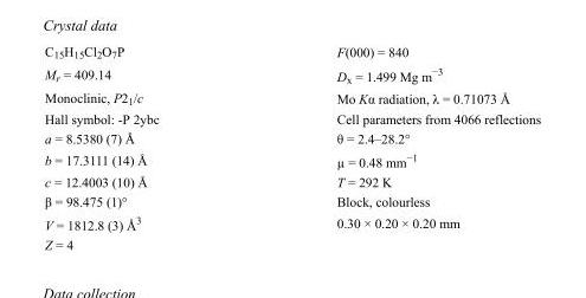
<table><tbody><tr><td>C<sub>15</sub>H<sub>15</sub>Cl<sub>2</sub>O<sub>7</sub>P</td><td>F(000) = 840</td></tr><tr><td>M<sub>r</sub> = 409.14</td><td>D<sub>x</sub> = 1.499 Mg m<sup>−3</sup></td></tr><tr><td>Monoclinic, P2<sub>1</sub>/c</td><td>Mo Kα radiation, λ = 0.71073 Å</td></tr><tr><td>Hall symbol: -P 2ybc</td><td>Cell parameters from 4066 reflections</td></tr><tr><td>a = 8.5380 (7) Å</td><td>θ = 2.4–28.2°</td></tr><tr><td>b = 17.3111 (14) Å</td><td>µ = 0.48 mm<sup>−1</sup></td></tr><tr><td>c = 12.4003 (10) Å</td><td>T = 292 K</td></tr><tr><td>β = 98.475 (1)°</td><td>Block, colourless</td></tr><tr><td>V = 1812.8 (3) Å<sup>3</sup></td><td>0.30 × 0.20 × 0.20 mm</td></tr><tr><td>Z = 4</td><td></td></tr></tbody></table>